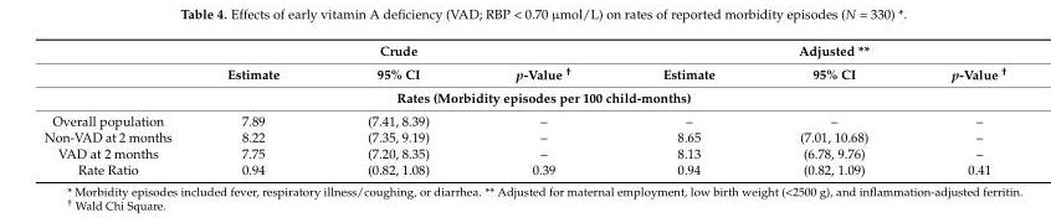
<table><thead><tr><td rowspan="2"></td><td colspan="3">Crude</td><td colspan="3">Adjusted **</td></tr><tr><td>Estimate</td><td>95% CI</td><td>p-Value <sup>†</sup></td><td>Estimate</td><td>95% CI</td><td>p-Value <sup>†</sup></td></tr></thead><tbody><tr><td colspan="7">Rates (Morbidity episodes per 100 child-months)</td></tr><tr><td>Overall population</td><td>7.89</td><td>(7.41, 8.39)</td><td>–</td><td>–</td><td>–</td><td>–</td></tr><tr><td>Non-VAD at 2 months</td><td>8.22</td><td>(7.35, 9.19)</td><td>–</td><td>8.65</td><td>(7.01, 10.68)</td><td>–</td></tr><tr><td>VAD at 2 months</td><td>7.75</td><td>(7.20, 8.35)</td><td>–</td><td>8.13</td><td>(6.78, 9.76)</td><td>–</td></tr><tr><td>Rate Ratio</td><td>0.94</td><td>(0.82, 1.08)</td><td>0.39</td><td>0.94</td><td>(0.82, 1.09)</td><td>0.41</td></tr></tbody></table>